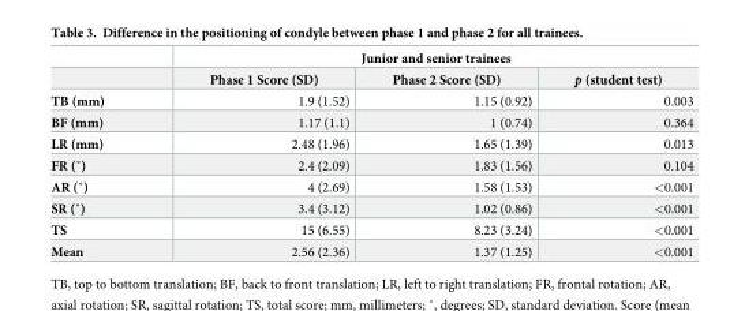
<table><thead><tr><td rowspan="2"></td><td colspan="3">Junior and senior trainees</td></tr><tr><td>Phase 1 Score (SD)</td><td>Phase 2 Score (SD)</td><td>p (student test)</td></tr></thead><tbody><tr><td>TB (mm)</td><td>1.9 (1.52)</td><td>1.15 (0.92)</td><td>0.003</td></tr><tr><td>BF (mm)</td><td>1.17 (1.1)</td><td>1 (0.74)</td><td>0.364</td></tr><tr><td>LR (mm)</td><td>2.48 (1.96)</td><td>1.65 (1.39)</td><td>0.013</td></tr><tr><td>FR (˚)</td><td>2.4 (2.09)</td><td>1.83 (1.56)</td><td>0.104</td></tr><tr><td>AR (˚)</td><td>4 (2.69)</td><td>1.58 (1.53)</td><td>&lt;0.001</td></tr><tr><td>SR (˚)</td><td>3.4 (3.12)</td><td>1.02 (0.86)</td><td>&lt;0.001</td></tr><tr><td>TS</td><td>15 (6.55)</td><td>8.23 (3.24)</td><td>&lt;0.001</td></tr><tr><td>Mean</td><td>2.56 (2.36)</td><td>1.37 (1.25)</td><td>&lt;0.001</td></tr></tbody></table>